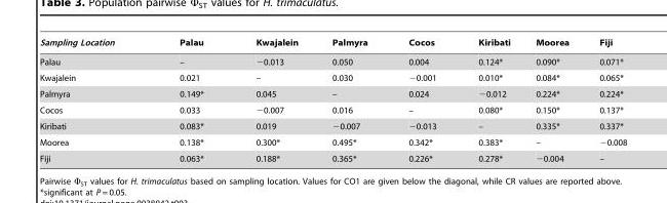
<table><thead><tr><td>Sampling Location</td><td>Palau</td><td>Kwajalein</td><td>Palmyra</td><td>Cocos</td><td>Kiribati</td><td>Moorea</td><td>Fiji</td></tr></thead><tbody><tr><td>Palau</td><td>–</td><td>−0.013</td><td>0.050</td><td>0.004</td><td>0.124*</td><td>0.090*</td><td>0.071*</td></tr><tr><td>Kwajalein</td><td>0.021</td><td>–</td><td>0.030</td><td>−0.001</td><td>0.010*</td><td>0.084*</td><td>0.065*</td></tr><tr><td>Palmyra</td><td>0.149*</td><td>0.045</td><td>–</td><td>0.024</td><td>−0.012</td><td>0.224*</td><td>0.224*</td></tr><tr><td>Cocos</td><td>0.033</td><td>−0.007</td><td>0.016</td><td>–</td><td>0.080*</td><td>0.150*</td><td>0.137*</td></tr><tr><td>Kiribati</td><td>0.083*</td><td>0.019</td><td>−0.007</td><td>−0.013</td><td>–</td><td>0.335*</td><td>0.337*</td></tr><tr><td>Moorea</td><td>0.138*</td><td>0.300*</td><td>0.495*</td><td>0.342*</td><td>0.383*</td><td>–</td><td>−0.008</td></tr><tr><td>Fiji</td><td>0.063*</td><td>0.188*</td><td>0.365*</td><td>0.226*</td><td>0.278*</td><td>−0.004</td><td>–</td></tr></tbody></table>